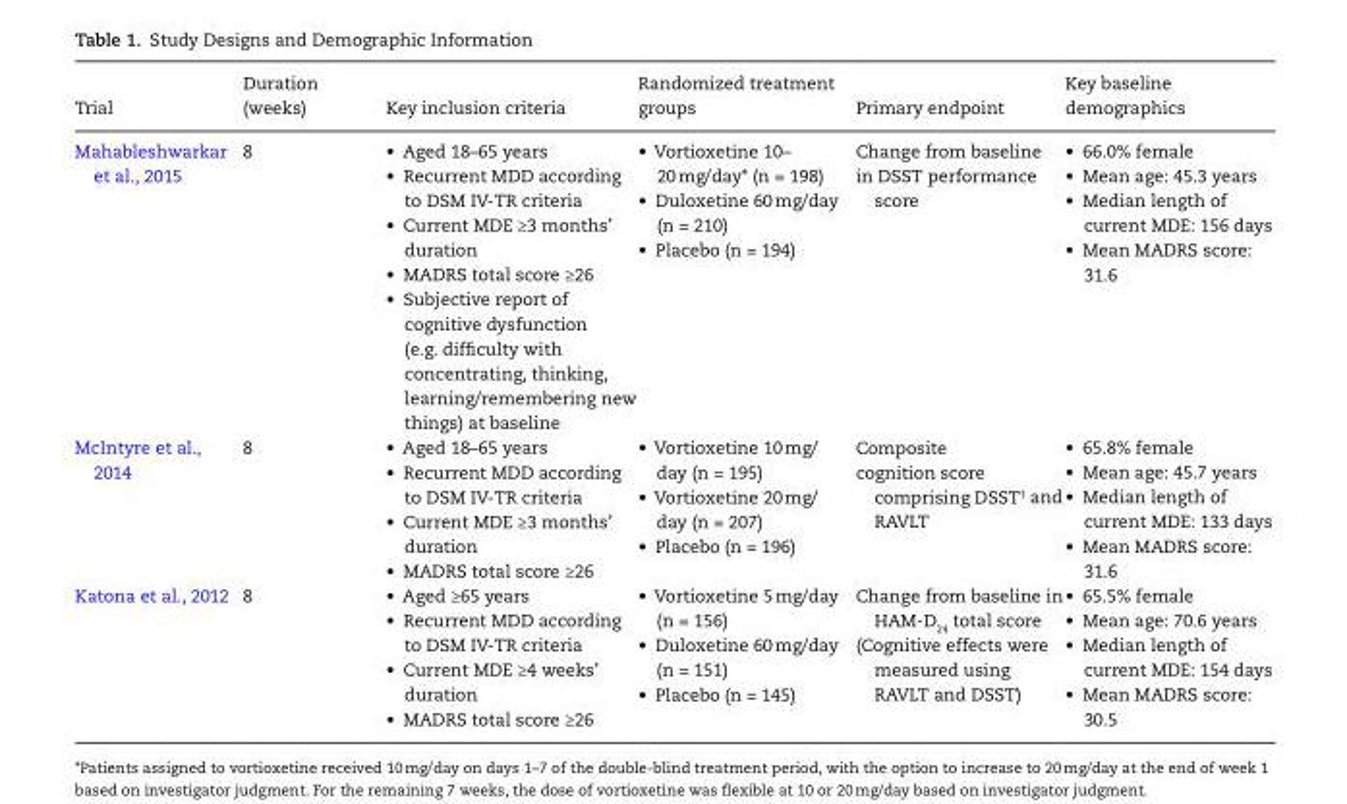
<table><thead><tr><td>Trial</td><td>Duration (weeks)</td><td>Key inclusion criteria</td><td>Randomized treatment groups</td><td>Primary endpoint</td><td>Key baseline demographics</td></tr></thead><tbody><tr><td>Mahableshwarkar et al., 2015</td><td>8</td><td>• Aged 18–65 years • Recurrent MDD according to DSM IV-TR criteria • Current MDE ≥3 months’ duration • MADRS total score ≥26 • Subjective report of cognitive dysfunction (e.g. difficulty with concentrating, thinking, learning/remembering new things) at baseline</td><td>• Vortioxetine 10– 20 mg/day* (n = 198) • Duloxetine 60 mg/day (n = 210) • Placebo (n = 194)</td><td>Change from baseline in DSST performance score</td><td>• 66.0% female • Mean age: 45.3 years • Median length of current MDE: 156 days • Mean MADRS score: 31.6</td></tr><tr><td>McIntyre et al., 2014</td><td>8</td><td>• Aged 18–65 years • Recurrent MDD according to DSM IV-TR criteria • Current MDE ≥3 months’ duration • MADRS total score ≥26</td><td>• Vortioxetine 10 mg/ day (n = 195) • Vortioxetine 20 mg/ day (n = 207) • Placebo (n = 196)</td><td>Composite cognition score comprising DSST<sup>†</sup> and RAVLT</td><td>• 65.8% female • Mean age: 45.7 years • Median length of current MDE: 133 days • Mean MADRS score: 31.6</td></tr><tr><td>Katona et al., 2012</td><td>8</td><td>• Aged ≥65 years • Recurrent MDD according to DSM IV-TR criteria • Current MDE ≥4 weeks’ duration • MADRS total score ≥26</td><td>• Vortioxetine 5 mg/day (n = 156) • Duloxetine 60 mg/day (n = 151) • Placebo (n = 145)</td><td>Change from baseline in HAM-D<sub>24</sub> total score (Cognitive effects were measured using RAVLT and DSST)</td><td>• 65.5% female • Mean age: 70.6 years • Median length of current MDE: 154 days • Mean MADRS score: 30.5</td></tr></tbody></table>